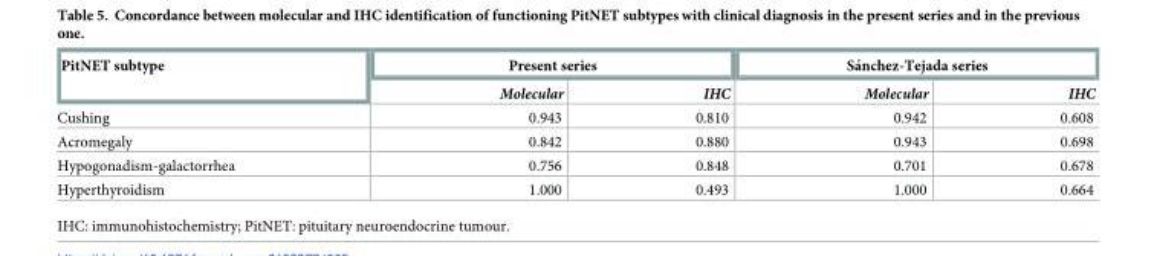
<table><thead><tr><td rowspan="2">PitNET subtype</td><td colspan="2">Present series</td><td colspan="2">Sa´nchez-Tejada series</td></tr><tr><td>Molecular</td><td>IHC</td><td>Molecular</td><td>IHC</td></tr></thead><tbody><tr><td>Cushing</td><td>0.943</td><td>0.810</td><td>0.942</td><td>0.608</td></tr><tr><td>Acromegaly</td><td>0.842</td><td>0.880</td><td>0.943</td><td>0.698</td></tr><tr><td>Hypogonadism-galactorrhea</td><td>0.756</td><td>0.848</td><td>0.701</td><td>0.678</td></tr><tr><td>Hyperthyroidism</td><td>1.000</td><td>0.493</td><td>1.000</td><td>0.664</td></tr></tbody></table>